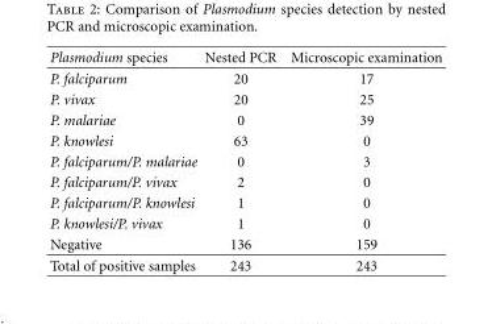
<table><thead><tr><td>Plasmodium species</td><td>Nested PCR</td><td>Microscopic examination</td></tr></thead><tbody><tr><td>P. falciparum</td><td>20</td><td>17</td></tr><tr><td>P. vivax</td><td>20</td><td>25</td></tr><tr><td>P. malariae</td><td>0</td><td>39</td></tr><tr><td>P. knowlesi</td><td>63</td><td>0</td></tr><tr><td>P. falciparum/P. malariae</td><td>0</td><td>3</td></tr><tr><td>P. falciparum/P. vivax</td><td>2</td><td>0</td></tr><tr><td>P. falciparum/P. knowlesi</td><td>1</td><td>0</td></tr><tr><td>P. knowlesi/P. vivax</td><td>1</td><td>0</td></tr><tr><td>Negative</td><td>136</td><td>159</td></tr><tr><td>Total of positive samples</td><td>243</td><td>243</td></tr></tbody></table>